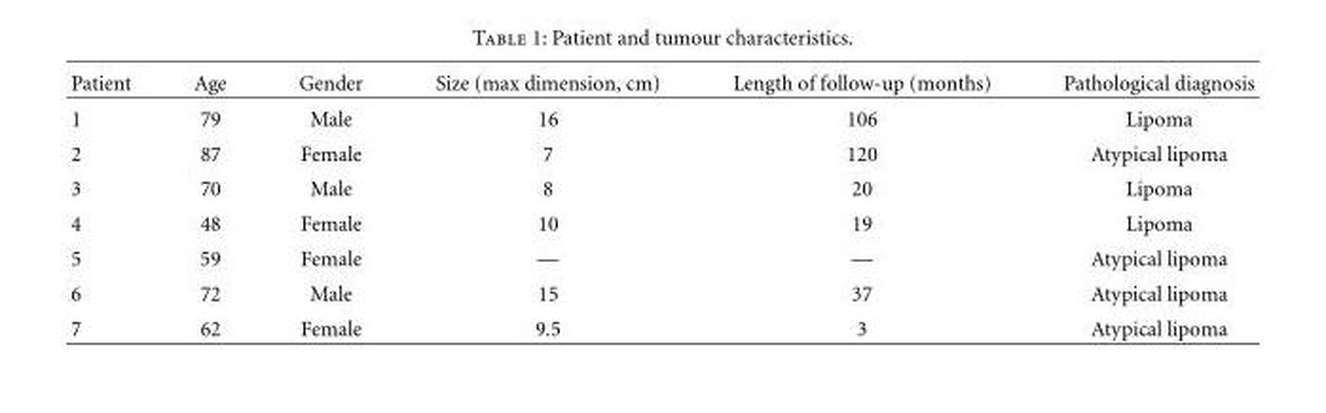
<table><thead><tr><td>Patient</td><td>Age</td><td>Gender</td><td>Size (max dimension, cm)</td><td>Length of follow-up (months)</td><td>Pathological diagnosis</td></tr></thead><tbody><tr><td>1</td><td>79</td><td>Male</td><td>16</td><td>106</td><td>Lipoma</td></tr><tr><td>2</td><td>87</td><td>Female</td><td>7</td><td>120</td><td>Atypical lipoma</td></tr><tr><td>3</td><td>70</td><td>Male</td><td>8</td><td>20</td><td>Lipoma</td></tr><tr><td>4</td><td>48</td><td>Female</td><td>10</td><td>19</td><td>Lipoma</td></tr><tr><td>5</td><td>59</td><td>Female</td><td>—</td><td>—</td><td>Atypical lipoma</td></tr><tr><td>6</td><td>72</td><td>Male</td><td>15</td><td>37</td><td>Atypical lipoma</td></tr><tr><td>7</td><td>62</td><td>Female</td><td>9.5</td><td>3</td><td>Atypical lipoma</td></tr></tbody></table>